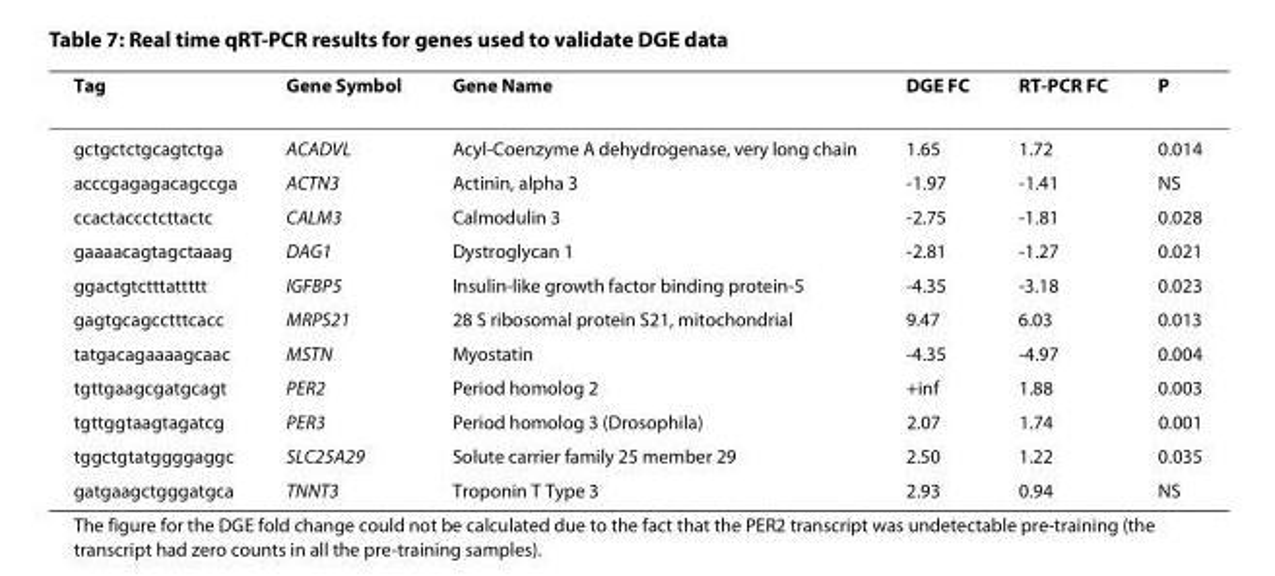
<table><thead><tr><td>Tag</td><td>Gene Symbol</td><td>Gene Name</td><td>DGE FC</td><td>RT-PCR FC</td><td>P</td></tr></thead><tbody><tr><td>gctgctctgcagtctga</td><td>ACADVL</td><td>Acyl-Coenzyme A dehydrogenase, very long chain</td><td>1.65</td><td>1.72</td><td>0.014</td></tr><tr><td>acccgagagacagccga</td><td>ACTN3</td><td>Actinin, alpha 3</td><td>-1.97</td><td>-1.41</td><td>NS</td></tr><tr><td>ccactaccctcttactc</td><td>CALM3</td><td>Calmodulin 3</td><td>-2.75</td><td>-1.81</td><td>0.028</td></tr><tr><td>gaaaacagtagctaaag</td><td>DAG1</td><td>Dystroglycan 1</td><td>-2.81</td><td>-1.27</td><td>0.021</td></tr><tr><td>ggactgtctttattttt</td><td>IGFBP5</td><td>Insulin-like growth factor binding protein-5</td><td>-4.35</td><td>-3.18</td><td>0.023</td></tr><tr><td>gagtgcagcctttcacc</td><td>MRPS21</td><td>28 S ribosomal protein S21, mitochondrial</td><td>9.47</td><td>6.03</td><td>0.013</td></tr><tr><td>tatgacagaaaagcaac</td><td>MSTN</td><td>Myostatin</td><td>-4.35</td><td>-4.97</td><td>0.004</td></tr><tr><td>tgttgaagcgatgcagt</td><td>PER2</td><td>Period homolog 2</td><td>+inf</td><td>1.88</td><td>0.003</td></tr><tr><td>tgttggtaagtagatcg</td><td>PER3</td><td>Period homolog 3 (Drosophila)</td><td>2.07</td><td>1.74</td><td>0.001</td></tr><tr><td>tggctgtatggggaggc</td><td>SLC25A29</td><td>Solute carrier family 25 member 29</td><td>2.50</td><td>1.22</td><td>0.035</td></tr><tr><td>gatgaagctgggatgca</td><td>TNNT3</td><td>Troponin T Type 3</td><td>2.93</td><td>0.94</td><td>NS</td></tr></tbody></table>